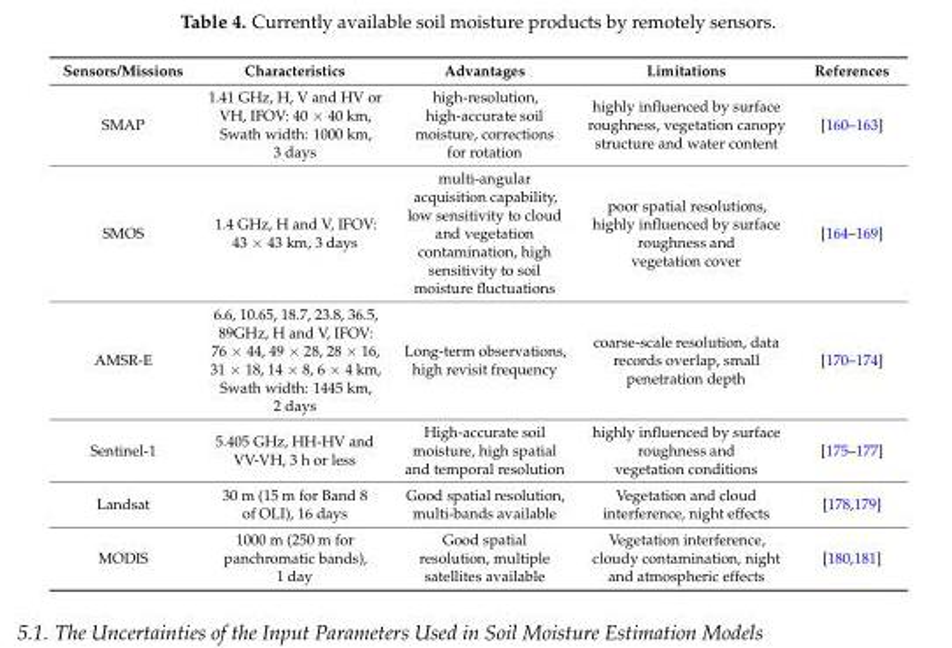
<table><thead><tr><td>Sensors/Missions</td><td>Characteristics</td><td>Advantages</td><td>Limitations</td><td>References</td></tr></thead><tbody><tr><td>SMAP</td><td>1.41 GHz, H, V and HV or VH, IFOV: 40 × 40 km, Swath width: 1000 km, 3 days</td><td>high-resolution, high-accurate soil moisture, corrections for rotation</td><td>highly influenced by surface roughness, vegetation canopy structure and water content</td><td>[160–163]</td></tr><tr><td>SMOS</td><td>1.4 GHz, H and V, IFOV: 43 × 43 km, 3 days</td><td>multi-angular acquisition capability, low sensitivity to cloud and vegetation contamination, high sensitivity to soil moisture fluctuations</td><td>poor spatial resolutions, highly influenced by surface roughness and vegetation cover</td><td>[164–169]</td></tr><tr><td>AMSR-E</td><td>6.6, 10.65, 18.7, 23.8, 36.5, 89GHz, H and V, IFOV: 76 × 44, 49 × 28, 28 × 16, 31 × 18, 14 × 8, 6 × 4 km, Swath width: 1445 km, 2 days</td><td>Long-term observations, high revisit frequency</td><td>coarse-scale resolution, data records overlap, small penetration depth</td><td>[170–174]</td></tr><tr><td>Sentinel-1</td><td>5.405 GHz, HH-HV and VV-VH, 3 h or less</td><td>High-accurate soil moisture, high spatial and temporal resolution</td><td>highly influenced by surface roughness and vegetation conditions</td><td>[175–177]</td></tr><tr><td>Landsat</td><td>30 m (15 m for Band 8 of OLI), 16 days</td><td>Good spatial resolution, multi-bands available</td><td>Vegetation and cloud interference, night effects</td><td>[178,179]</td></tr><tr><td>MODIS</td><td>1000 m (250 m for panchromatic bands), 1 day</td><td>Good spatial resolution, multiple satellites available</td><td>Vegetation interference, cloudy contamination, night and atmospheric effects</td><td>[180,181]</td></tr></tbody></table>